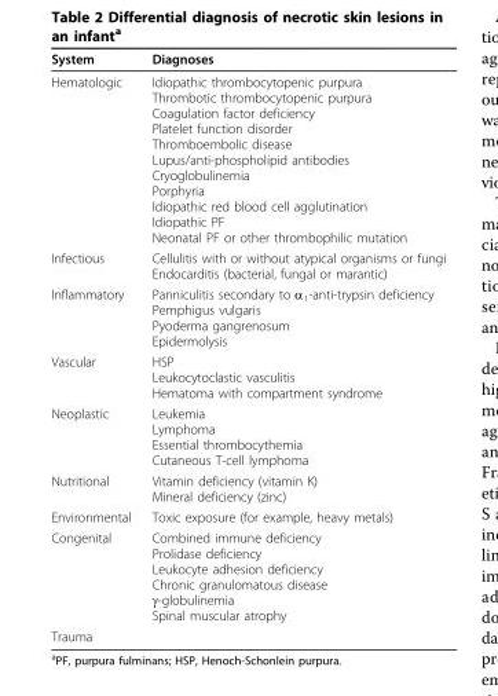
<table><thead><tr><td>System</td><td>Diagnoses</td></tr></thead><tbody><tr><td>Hematologic</td><td>Idiopathic thrombocytopenic purpura Thrombotic thrombocytopenic purpura Coagulation factor deficiency Platelet function disorder Thromboembolic disease Lupus/anti-phospholipid antibodies Cryoglobulinemia Porphyria Idiopathic red blood cell agglutination Idiopathic PF Neonatal PF or other thrombophilic mutation</td></tr><tr><td>Infectious</td><td>Cellulitis with or without atypical organisms or fungi Endocarditis (bacterial, fungal or marantic)</td></tr><tr><td>Inflammatory</td><td>Panniculitis secondary to α<sub>1</sub>-anti-trypsin deficiency Pemphigus vulgaris Pyoderma gangrenosum Epidermolysis</td></tr><tr><td>Vascular</td><td>HSP Leukocytoclastic vasculitis Hematoma with compartment syndrome</td></tr><tr><td>Neoplastic</td><td>Leukemia Lymphoma Essential thrombocythemia Cutaneous T-cell lymphoma</td></tr><tr><td>Nutritional</td><td>Vitamin deficiency (vitamin K) Mineral deficiency (zinc)</td></tr><tr><td>Environmental</td><td>Toxic exposure (for example, heavy metals)</td></tr><tr><td>Congenital</td><td>Combined immune deficiency Prolidase deficiency Leukocyte adhesion deficiency Chronic granulomatous disease γ-globulinemia Spinal muscular atrophy</td></tr><tr><td>Trauma</td><td></td></tr></tbody></table>